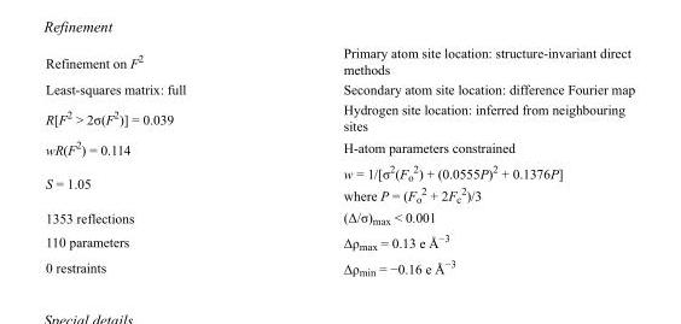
<table><tbody><tr><td>Refinement on F<sup>2</sup></td><td>Primary atom site location: structure-invariant direct methods</td></tr><tr><td>Least-squares matrix: full</td><td>Secondary atom site location: difference Fourier map</td></tr><tr><td>R[F<sup>2</sup> &gt; 2σ(F<sup>2</sup>)] = 0.039</td><td>Hydrogen site location: inferred from neighbouring sites</td></tr><tr><td>wR(F<sup>2</sup>) = 0.114</td><td>H-atom parameters constrained</td></tr><tr><td>S = 1.05</td><td>w = 1/[σ<sup>2</sup>(F<sub>o</sub> <sup>2</sup>) + (0.0555P)<sup>2</sup> + 0.1376P] where P = (F<sub>o</sub> <sup>2</sup> + 2F<sub>c</sub> <sup>2</sup>)/3</td></tr><tr><td>1353 reflections</td><td>(Δ/σ)<sub>max</sub> &lt; 0.001</td></tr><tr><td>110 parameters</td><td>Δρ<sub>max</sub> = 0.13 e Å<sup>−3</sup></td></tr><tr><td>0 restraints</td><td>Δρ<sub>min</sub> = −0.16 e Å<sup>−3</sup></td></tr></tbody></table>